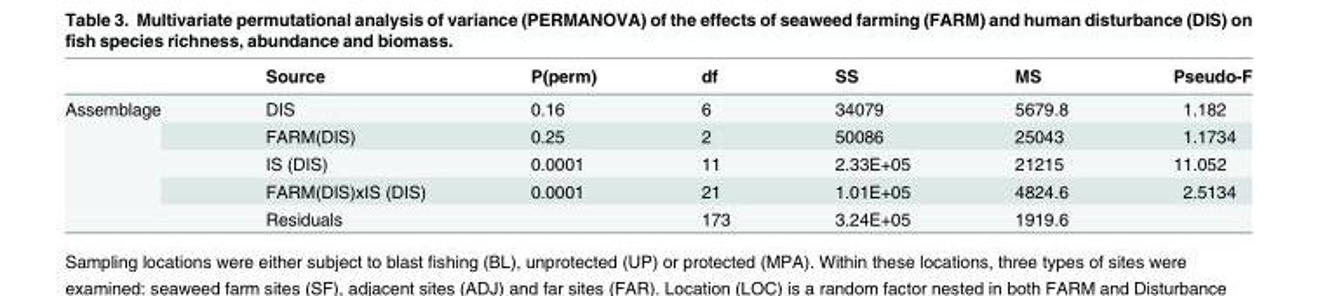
<table><thead><tr><td></td><td>Source</td><td>P(perm)</td><td>df</td><td>SS</td><td>MS</td><td>Pseudo-F</td></tr></thead><tbody><tr><td rowspan="5">Assemblage</td><td>DIS</td><td>0.16</td><td>6</td><td>34079</td><td>5679.8</td><td>1.182</td></tr><tr><td>FARM(DIS)</td><td>0.25</td><td>2</td><td>50086</td><td>25043</td><td>1.1734</td></tr><tr><td>IS (DIS)</td><td>0.0001</td><td>11</td><td>2.33E+05</td><td>21215</td><td>11.052</td></tr><tr><td>FARM(DIS)xIS (DIS)</td><td>0.0001</td><td>21</td><td>1.01E+05</td><td>4824.6</td><td>2.5134</td></tr><tr><td>Residuals</td><td></td><td>173</td><td>3.24E+05</td><td>1919.6</td><td></td></tr></tbody></table>